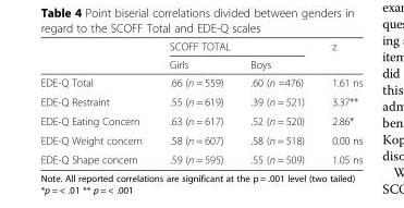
<table><thead><tr><td rowspan="2"></td><td colspan="2">SCOFF TOTAL</td><td rowspan="2">z</td></tr><tr><td>Girls</td><td>Boys</td></tr></thead><tbody><tr><td>EDE-Q Total</td><td>.66 (n = 559)</td><td>.60 (n =476)</td><td>1.61 ns</td></tr><tr><td>EDE-Q Restraint</td><td>.55 (n = 619)</td><td>.39 (n = 521)</td><td>3.37**</td></tr><tr><td>EDE-Q Eating Concern</td><td>.63 (n = 617)</td><td>.52 (n = 520)</td><td>2.86*</td></tr><tr><td>EDE-Q Weight concern</td><td>.58 (n = 607)</td><td>.58 (n = 518)</td><td>0.00 ns</td></tr><tr><td>EDE-Q Shape concern</td><td>.59 (n = 595)</td><td>.55 (n = 509)</td><td>1.05 ns</td></tr></tbody></table>